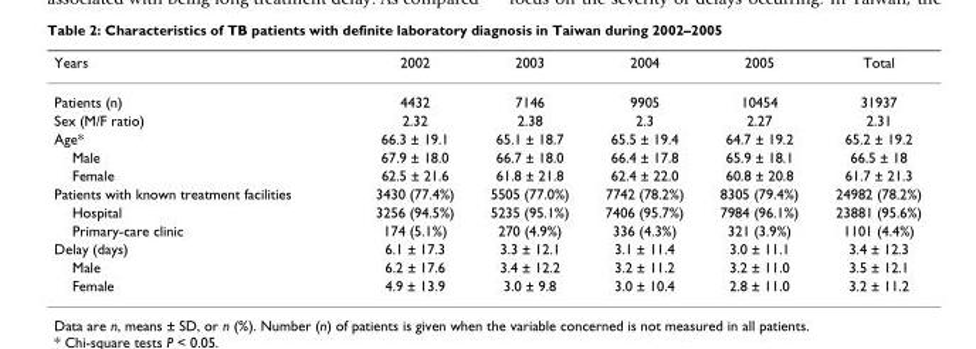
<table><thead><tr><td>Years</td><td>2002</td><td>2003</td><td>2004</td><td>2005</td><td>Total</td></tr></thead><tbody><tr><td>Patients (n)</td><td>4432</td><td>7146</td><td>9905</td><td>10454</td><td>31937</td></tr><tr><td>Sex (M/F ratio)</td><td>2.32</td><td>2.38</td><td>2.3</td><td>2.27</td><td>2.31</td></tr><tr><td>Age*</td><td>66.3 ± 19.1</td><td>65.1 ± 18.7</td><td>65.5 ± 19.4</td><td>64.7 ± 19.2</td><td>65.2 ± 19.2</td></tr><tr><td>Male</td><td>67.9 ± 18.0</td><td>66.7 ± 18.0</td><td>66.4 ± 17.8</td><td>65.9 ± 18.1</td><td>66.5 ± 18</td></tr><tr><td>Female</td><td>62.5 ± 21.6</td><td>61.8 ± 21.8</td><td>62.4 ± 22.0</td><td>60.8 ± 20.8</td><td>61.7 ± 21.3</td></tr><tr><td>Patients with known treatment facilities</td><td>3430 (77.4%)</td><td>5505 (77.0%)</td><td>7742 (78.2%)</td><td>8305 (79.4%)</td><td>24982 (78.2%)</td></tr><tr><td>Hospital</td><td>3256 (94.5%)</td><td>5235 (95.1%)</td><td>7406 (95.7%)</td><td>7984 (96.1%)</td><td>23881 (95.6%)</td></tr><tr><td>Primary-care clinic</td><td>174 (5.1%)</td><td>270 (4.9%)</td><td>336 (4.3%)</td><td>321 (3.9%)</td><td>1101 (4.4%)</td></tr><tr><td>Delay (days)</td><td>6.1 ± 17.3</td><td>3.3 ± 12.1</td><td>3.1 ± 11.4</td><td>3.0 ± 11.1</td><td>3.4 ± 12.3</td></tr><tr><td>Male</td><td>6.2 ± 17.6</td><td>3.4 ± 12.2</td><td>3.2 ± 11.2</td><td>3.2 ± 11.0</td><td>3.5 ± 12.1</td></tr><tr><td>Female</td><td>4.9 ± 13.9</td><td>3.0 ± 9.8</td><td>3.0 ± 10.4</td><td>2.8 ± 11.0</td><td>3.2 ± 11.2</td></tr></tbody></table>